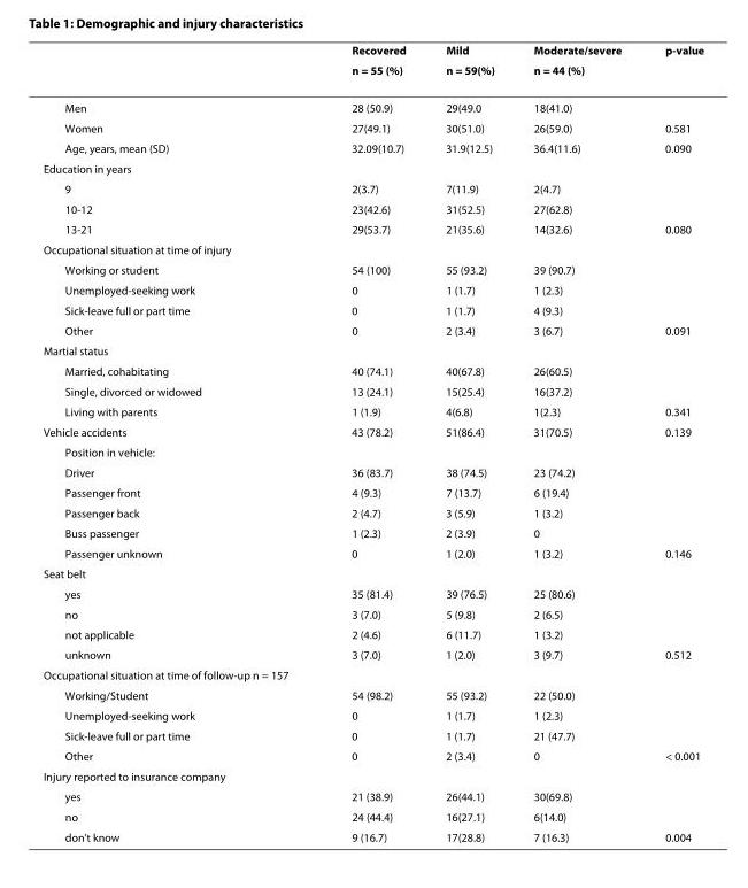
<table><thead><tr><td rowspan="2"></td><td rowspan="2">Recovered n = 55 (%)</td><td rowspan="2">Mild n = 59(%)</td><td rowspan="2">Moderate/severe n = 44 (%)</td><td rowspan="2">p-value</td></tr><tr></tr></thead><tbody><tr><td>Men</td><td>28 (50.9)</td><td>29(49.0</td><td>18(41.0)</td><td></td></tr><tr><td>Women</td><td>27(49.1)</td><td>30(51.0)</td><td>26(59.0)</td><td>0.581</td></tr><tr><td>Age, years, mean (SD)</td><td>32.09(10.7)</td><td>31.9(12.5)</td><td>36.4(11.6)</td><td>0.090</td></tr><tr><td colspan="5">Education in years</td></tr><tr><td>9</td><td>2(3.7)</td><td>7(11.9)</td><td>2(4.7)</td><td></td></tr><tr><td>10-12</td><td>23(42.6)</td><td>31(52.5)</td><td>27(62.8)</td><td></td></tr><tr><td>13-21</td><td>29(53.7)</td><td>21(35.6)</td><td>14(32.6)</td><td>0.080</td></tr><tr><td colspan="5">Occupational situation at time of injury</td></tr><tr><td>Working or student</td><td>54 (100)</td><td>55 (93.2)</td><td>39 (90.7)</td><td></td></tr><tr><td>Unemployed-seeking work</td><td>0</td><td>1 (1.7)</td><td>1 (2.3)</td><td></td></tr><tr><td>Sick-leave full or part time</td><td>0</td><td>1 (1.7)</td><td>4 (9.3)</td><td></td></tr><tr><td>Other</td><td>0</td><td>2 (3.4)</td><td>3 (6.7)</td><td>0.091</td></tr><tr><td colspan="5">Martial status</td></tr><tr><td>Married, cohabitating</td><td>40 (74.1)</td><td>40(67.8)</td><td>26(60.5)</td><td></td></tr><tr><td>Single, divorced or widowed</td><td>13 (24.1)</td><td>15(25.4)</td><td>16(37.2)</td><td></td></tr><tr><td>Living with parents</td><td>1 (1.9)</td><td>4(6.8)</td><td>1(2.3)</td><td>0.341</td></tr><tr><td>Vehicle accidents</td><td>43 (78.2)</td><td>51(86.4)</td><td>31(70.5)</td><td>0.139</td></tr><tr><td colspan="5">Position in vehicle:</td></tr><tr><td>Driver</td><td>36 (83.7)</td><td>38 (74.5)</td><td>23 (74.2)</td><td></td></tr><tr><td>Passenger front</td><td>4 (9.3)</td><td>7 (13.7)</td><td>6 (19.4)</td><td></td></tr><tr><td>Passenger back</td><td>2 (4.7)</td><td>3 (5.9)</td><td>1 (3.2)</td><td></td></tr><tr><td>Buss passenger</td><td>1 (2.3)</td><td>2 (3.9)</td><td>0</td><td></td></tr><tr><td>Passenger unknown</td><td>0</td><td>1 (2.0)</td><td>1 (3.2)</td><td>0.146</td></tr><tr><td colspan="5">Seat belt</td></tr><tr><td>yes</td><td>35 (81.4)</td><td>39 (76.5)</td><td>25 (80.6)</td><td></td></tr><tr><td>no</td><td>3 (7.0)</td><td>5 (9.8)</td><td>2 (6.5)</td><td></td></tr><tr><td>not applicable</td><td>2 (4.6)</td><td>6 (11.7)</td><td>1 (3.2)</td><td></td></tr><tr><td>unknown</td><td>3 (7.0)</td><td>1 (2.0)</td><td>3 (9.7)</td><td>0.512</td></tr><tr><td colspan="5">Occupational situation at time of follow-up n = 157</td></tr><tr><td>Working/Student</td><td>54 (98.2)</td><td>55 (93.2)</td><td>22 (50.0)</td><td></td></tr><tr><td>Unemployed-seeking work</td><td>0</td><td>1 (1.7)</td><td>1 (2.3)</td><td></td></tr><tr><td>Sick-leave full or part time</td><td>0</td><td>1 (1.7)</td><td>21 (47.7)</td><td></td></tr><tr><td>Other</td><td>0</td><td>2 (3.4)</td><td>0</td><td>&lt; 0.001</td></tr><tr><td colspan="5">Injury reported to insurance company</td></tr><tr><td>yes</td><td>21 (38.9)</td><td>26(44.1)</td><td>30(69.8)</td><td></td></tr><tr><td>no</td><td>24 (44.4)</td><td>16(27.1)</td><td>6(14.0)</td><td></td></tr><tr><td>don&#x27;t know</td><td>9 (16.7)</td><td>17(28.8)</td><td>7 (16.3)</td><td>0.004</td></tr></tbody></table>